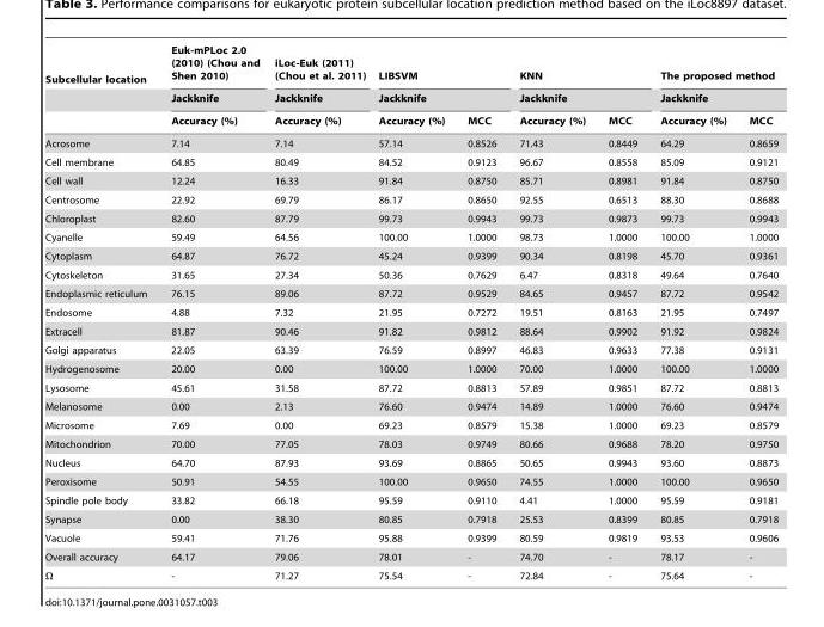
<table><thead><tr><td rowspan="3">Subcellular location</td><td rowspan="3">Euk-mPLoc 2.0 (2010) (Chou and Shen 2010) Jackknife Accuracy (%)</td><td rowspan="3">iLoc-Euk (2011) (Chou et al. 2011) Jackknife Accuracy (%)</td><td rowspan="2" colspan="2">LIBSVM Jackknife</td><td rowspan="2" colspan="2">KNN Jackknife</td><td rowspan="2" colspan="2">The proposed method Jackknife</td></tr><tr></tr><tr><td>Accuracy (%)</td><td>MCC</td><td>Accuracy (%)</td><td>MCC</td><td>Accuracy (%)</td><td>MCC</td></tr></thead><tbody><tr><td>Acrosome</td><td>7.14</td><td>7.14</td><td>57.14</td><td>0.8526</td><td>71.43</td><td>0.8449</td><td>64.29</td><td>0.8659</td></tr><tr><td>Cell membrane</td><td>64.85</td><td>80.49</td><td>84.52</td><td>0.9123</td><td>96.67</td><td>0.8558</td><td>85.09</td><td>0.9121</td></tr><tr><td>Cell wall</td><td>12.24</td><td>16.33</td><td>91.84</td><td>0.8750</td><td>85.71</td><td>0.8981</td><td>91.84</td><td>0.8750</td></tr><tr><td>Centrosome</td><td>22.92</td><td>69.79</td><td>86.17</td><td>0.8650</td><td>92.55</td><td>0.6513</td><td>88.30</td><td>0.8688</td></tr><tr><td>Chloroplast</td><td>82.60</td><td>87.79</td><td>99.73</td><td>0.9943</td><td>99.73</td><td>0.9873</td><td>99.73</td><td>0.9943</td></tr><tr><td>Cyanelle</td><td>59.49</td><td>64.56</td><td>100.00</td><td>1.0000</td><td>98.73</td><td>1.0000</td><td>100.00</td><td>1.0000</td></tr><tr><td>Cytoplasm</td><td>64.87</td><td>76.72</td><td>45.24</td><td>0.9399</td><td>90.34</td><td>0.8198</td><td>45.70</td><td>0.9361</td></tr><tr><td>Cytoskeleton</td><td>31.65</td><td>27.34</td><td>50.36</td><td>0.7629</td><td>6.47</td><td>0.8318</td><td>49.64</td><td>0.7640</td></tr><tr><td>Endoplasmic reticulum</td><td>76.15</td><td>89.06</td><td>87.72</td><td>0.9529</td><td>84.65</td><td>0.9457</td><td>87.72</td><td>0.9542</td></tr><tr><td>Endosome</td><td>4.88</td><td>7.32</td><td>21.95</td><td>0.7272</td><td>19.51</td><td>0.8163</td><td>21.95</td><td>0.7497</td></tr><tr><td>Extracell</td><td>81.87</td><td>90.46</td><td>91.82</td><td>0.9812</td><td>88.64</td><td>0.9902</td><td>91.92</td><td>0.9824</td></tr><tr><td>Golgi apparatus</td><td>22.05</td><td>63.39</td><td>76.59</td><td>0.8997</td><td>46.83</td><td>0.9633</td><td>77.38</td><td>0.9131</td></tr><tr><td>Hydrogenosome</td><td>20.00</td><td>0.00</td><td>100.00</td><td>1.0000</td><td>70.00</td><td>1.0000</td><td>100.00</td><td>1.0000</td></tr><tr><td>Lysosome</td><td>45.61</td><td>31.58</td><td>87.72</td><td>0.8813</td><td>57.89</td><td>0.9851</td><td>87.72</td><td>0.8813</td></tr><tr><td>Melanosome</td><td>0.00</td><td>2.13</td><td>76.60</td><td>0.9474</td><td>14.89</td><td>1.0000</td><td>76.60</td><td>0.9474</td></tr><tr><td>Microsome</td><td>7.69</td><td>0.00</td><td>69.23</td><td>0.8579</td><td>15.38</td><td>1.0000</td><td>69.23</td><td>0.8579</td></tr><tr><td>Mitochondrion</td><td>70.00</td><td>77.05</td><td>78.03</td><td>0.9749</td><td>80.66</td><td>0.9688</td><td>78.20</td><td>0.9750</td></tr><tr><td>Nucleus</td><td>64.70</td><td>87.93</td><td>93.69</td><td>0.8865</td><td>50.65</td><td>0.9943</td><td>93.60</td><td>0.8873</td></tr><tr><td>Peroxisome</td><td>50.91</td><td>54.55</td><td>100.00</td><td>0.9650</td><td>74.55</td><td>1.0000</td><td>100.00</td><td>0.9650</td></tr><tr><td>Spindle pole body</td><td>33.82</td><td>66.18</td><td>95.59</td><td>0.9110</td><td>4.41</td><td>1.0000</td><td>95.59</td><td>0.9181</td></tr><tr><td>Synapse</td><td>0.00</td><td>38.30</td><td>80.85</td><td>0.7918</td><td>25.53</td><td>0.8399</td><td>80.85</td><td>0.7918</td></tr><tr><td>Vacuole</td><td>59.41</td><td>71.76</td><td>95.88</td><td>0.9399</td><td>80.59</td><td>0.9819</td><td>93.53</td><td>0.9606</td></tr><tr><td rowspan="2">Overall accuracy V</td><td>64.17</td><td>79.06</td><td>78.01</td><td>-</td><td>74.70</td><td>-</td><td>78.17</td><td>-</td></tr><tr><td>-</td><td>71.27</td><td>75.54</td><td>-</td><td>72.84</td><td>-</td><td>75.64</td><td>-</td></tr></tbody></table>